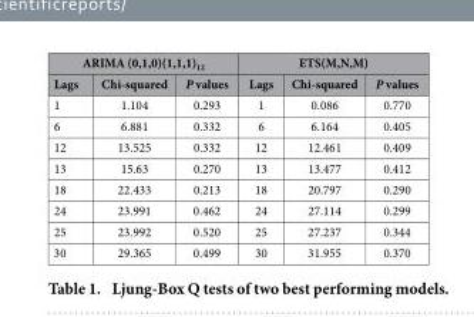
<table><thead><tr><td colspan="3">ARIMA (0,1,0)(1,1,1)<sub>12</sub></td><td colspan="3">ETS(M,N,M)</td></tr><tr><td>Lags</td><td>Chi-squared</td><td>P values</td><td>Lags</td><td>Chi-squared</td><td>P values</td></tr></thead><tbody><tr><td>1</td><td>1.104</td><td>0.293</td><td>1</td><td>0.086</td><td>0.770</td></tr><tr><td>6</td><td>6.881</td><td>0.332</td><td>6</td><td>6.164</td><td>0.405</td></tr><tr><td>12</td><td>13.525</td><td>0.332</td><td>12</td><td>12.461</td><td>0.409</td></tr><tr><td>13</td><td>15.63</td><td>0.270</td><td>13</td><td>13.477</td><td>0.412</td></tr><tr><td>18</td><td>22.433</td><td>0.213</td><td>18</td><td>20.797</td><td>0.290</td></tr><tr><td>24</td><td>23.991</td><td>0.462</td><td>24</td><td>27.114</td><td>0.299</td></tr><tr><td>25</td><td>23.992</td><td>0.520</td><td>25</td><td>27.237</td><td>0.344</td></tr><tr><td>30</td><td>29.365</td><td>0.499</td><td>30</td><td>31.955</td><td>0.370</td></tr></tbody></table>